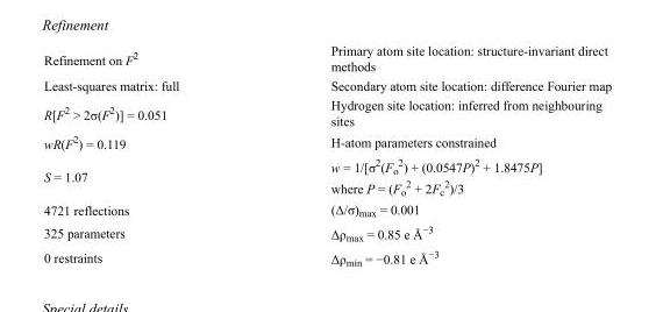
<table><tbody><tr><td>Refinement on F<sup>2</sup></td><td>Primary atom site location: structure-invariant direct methods</td></tr><tr><td>Least-squares matrix: full</td><td>Secondary atom site location: difference Fourier map</td></tr><tr><td>R[F<sup>2</sup> &gt; 2σ(F<sup>2</sup>)] = 0.051</td><td>Hydrogen site location: inferred from neighbouring sites</td></tr><tr><td>wR(F<sup>2</sup>) = 0.119</td><td>H-atom parameters constrained</td></tr><tr><td>S = 1.07</td><td>w = 1/[σ<sup>2</sup>(F<sub>o</sub> <sup>2</sup>) + (0.0547P)<sup>2</sup> + 1.8475P] where P = (F<sub>o</sub> <sup>2</sup> + 2F<sub>c</sub> <sup>2</sup>)/3</td></tr><tr><td>4721 reflections</td><td>(Δ/σ)<sub>max</sub> = 0.001</td></tr><tr><td>325 parameters</td><td>Δρ<sub>max</sub> = 0.85 e Å<sup>−3</sup></td></tr><tr><td>0 restraints</td><td>Δρ<sub>min</sub> = −0.81 e Å<sup>−3</sup></td></tr></tbody></table>